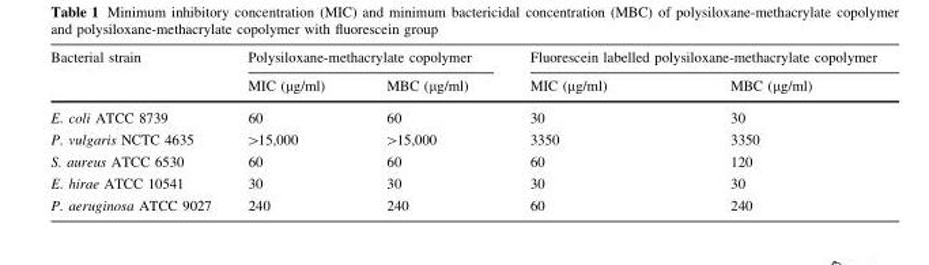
<table><thead><tr><td rowspan="2">Bacterial strain</td><td colspan="2">Polysiloxane-methacrylate copolymer</td><td colspan="2">Fluorescein labelled polysiloxane-methacrylate copolymer</td></tr><tr><td>MIC (μg/ml)</td><td>MBC (μg/ml)</td><td>MIC (μg/ml)</td><td>MBC (μg/ml)</td></tr></thead><tbody><tr><td>E. coli ATCC 8739</td><td>60</td><td>60</td><td>30</td><td>30</td></tr><tr><td>P. vulgaris NCTC 4635</td><td>&gt;15,000</td><td>&gt;15,000</td><td>3350</td><td>3350</td></tr><tr><td>S. aureus ATCC 6530</td><td>60</td><td>60</td><td>60</td><td>120</td></tr><tr><td>E. hirae ATCC 10541</td><td>30</td><td>30</td><td>30</td><td>30</td></tr><tr><td>P. aeruginosa ATCC 9027</td><td>240</td><td>240</td><td>60</td><td>240</td></tr></tbody></table>